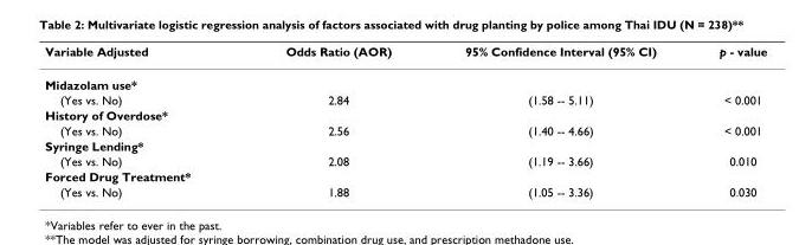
<table><thead><tr><td>Variable Adjusted</td><td>Odds Ratio (AOR)</td><td>95% Confidence Interval (95% CI)</td><td>p - value</td></tr></thead><tbody><tr><td colspan="4">Midazolam use*</td></tr><tr><td>(Yes vs. No)</td><td>2.84</td><td>(1.58 -- 5.11)</td><td>&lt; 0.001</td></tr><tr><td colspan="4">History of Overdose*</td></tr><tr><td>(Yes vs. No)</td><td>2.56</td><td>(1.40 -- 4.66)</td><td>&lt; 0.001</td></tr><tr><td colspan="4">Syringe Lending*</td></tr><tr><td>(Yes vs. No)</td><td>2.08</td><td>(1.19 -- 3.66)</td><td>0.010</td></tr><tr><td colspan="4">Forced Drug Treatment*</td></tr><tr><td>(Yes vs. No)</td><td>1.88</td><td>(1.05 -- 3.36)</td><td>0.030</td></tr></tbody></table>